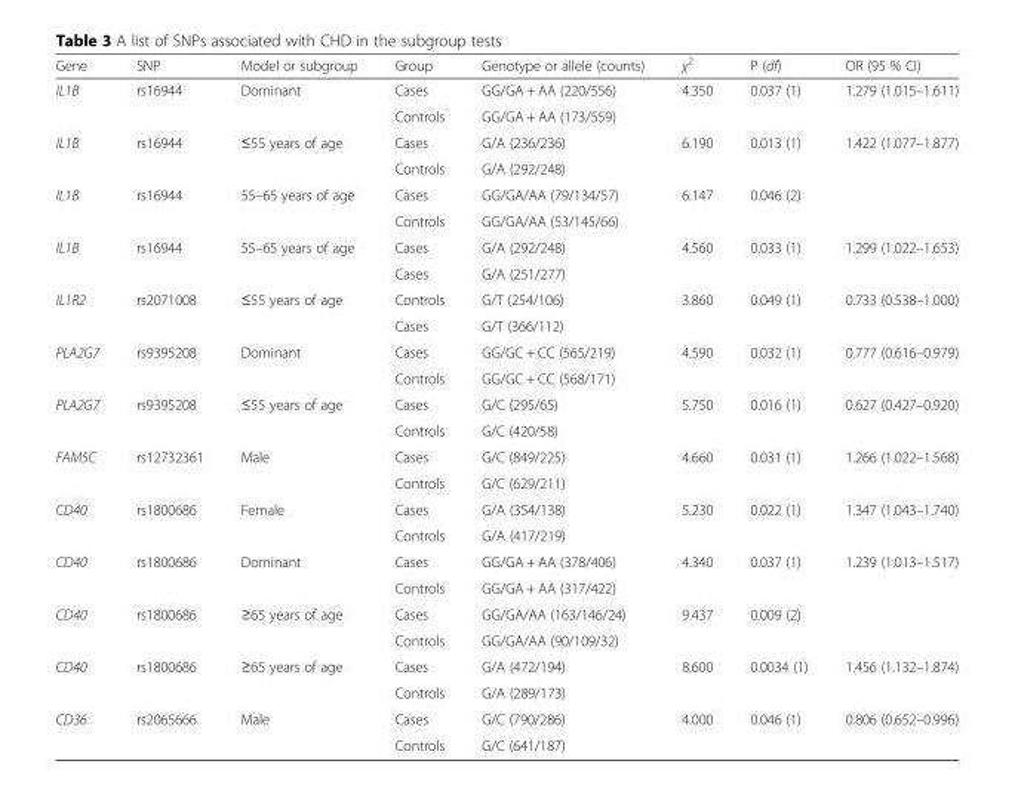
<table><thead><tr><td>Gene</td><td>SNP</td><td>Model or subgroup</td><td>Group</td><td>Genotype or allele (counts)</td><td>χ<sup>2</sup></td><td>P (df)</td><td>OR (95 % CI)</td></tr></thead><tbody><tr><td rowspan="2">IL1B</td><td>rs16944</td><td>Dominant</td><td>Cases</td><td>GG/GA + AA (220/556)</td><td>4.350</td><td>0.037 (1)</td><td>1.279 (1.015–1.611)</td></tr><tr><td></td><td></td><td>Controls</td><td>GG/GA + AA (173/559)</td><td></td><td></td><td></td></tr><tr><td rowspan="2">IL1B</td><td>rs16944</td><td>≤55 years of age</td><td>Cases</td><td>G/A (236/236)</td><td>6.190</td><td>0.013 (1)</td><td>1.422 (1.077–1.877)</td></tr><tr><td></td><td></td><td>Controls</td><td>G/A (292/248)</td><td></td><td></td><td></td></tr><tr><td rowspan="2">IL1B</td><td>rs16944</td><td>55–65 years of age</td><td>Cases</td><td>GG/GA/AA (79/134/57)</td><td>6.147</td><td>0.046 (2)</td><td></td></tr><tr><td></td><td></td><td>Controls</td><td>GG/GA/AA (53/145/66)</td><td></td><td></td><td></td></tr><tr><td rowspan="2">IL1B</td><td>rs16944</td><td>55–65 years of age</td><td>Cases</td><td>G/A (292/248)</td><td>4.560</td><td>0.033 (1)</td><td>1.299 (1.022–1.653)</td></tr><tr><td></td><td></td><td>Cases</td><td>G/A (251/277)</td><td></td><td></td><td></td></tr><tr><td rowspan="2">IL1R2</td><td>rs2071008</td><td>≤55 years of age</td><td>Controls</td><td>G/T (254/106)</td><td>3.860</td><td>0.049 (1)</td><td>0.733 (0.538–1.000)</td></tr><tr><td></td><td></td><td>Cases</td><td>G/T (366/112)</td><td></td><td></td><td></td></tr><tr><td rowspan="2">PLA2G7</td><td>rs9395208</td><td>Dominant</td><td>Cases</td><td>GG/GC + CC (565/219)</td><td>4.590</td><td>0.032 (1)</td><td>0.777 (0.616–0.979)</td></tr><tr><td></td><td></td><td>Controls</td><td>GG/GC + CC (568/171)</td><td></td><td></td><td></td></tr><tr><td rowspan="2">PLA2G7</td><td>rs9395208</td><td>≤55 years of age</td><td>Cases</td><td>G/C (295/65)</td><td>5.750</td><td>0.016 (1)</td><td>0.627 (0.427–0.920)</td></tr><tr><td></td><td></td><td>Controls</td><td>G/C (420/58)</td><td></td><td></td><td></td></tr><tr><td rowspan="2">FAM5C</td><td>rs12732361</td><td>Male</td><td>Cases</td><td>G/C (849/225)</td><td>4.660</td><td>0.031 (1)</td><td>1.266 (1.022–1.568)</td></tr><tr><td></td><td></td><td>Controls</td><td>G/C (629/211)</td><td></td><td></td><td></td></tr><tr><td rowspan="2">CD40</td><td>rs1800686</td><td>Female</td><td>Cases</td><td>G/A (354/138)</td><td>5.230</td><td>0.022 (1)</td><td>1.347 (1.043–1.740)</td></tr><tr><td></td><td></td><td>Controls</td><td>G/A (417/219)</td><td></td><td></td><td></td></tr><tr><td rowspan="2">CD40</td><td>rs1800686</td><td>Dominant</td><td>Cases</td><td>GG/GA + AA (378/406)</td><td>4.340</td><td>0.037 (1)</td><td>1.239 (1.013–1.517)</td></tr><tr><td></td><td></td><td>Controls</td><td>GG/GA + AA (317/422)</td><td></td><td></td><td></td></tr><tr><td rowspan="2">CD40</td><td>rs1800686</td><td>≥65 years of age</td><td>Cases</td><td>GG/GA/AA (163/146/24)</td><td>9.437</td><td>0.009 (2)</td><td></td></tr><tr><td></td><td></td><td>Controls</td><td>GG/GA/AA (90/109/32)</td><td></td><td></td><td></td></tr><tr><td rowspan="2">CD40</td><td>rs1800686</td><td>≥65 years of age</td><td>Cases</td><td>G/A (472/194)</td><td>8.600</td><td>0.0034 (1)</td><td>1.456 (1.132–1.874)</td></tr><tr><td></td><td></td><td>Controls</td><td>G/A (289/173)</td><td></td><td></td><td></td></tr><tr><td rowspan="2">CD36</td><td>rs2065666</td><td>Male</td><td>Cases</td><td>G/C (790/286)</td><td>4.000</td><td>0.046 (1)</td><td>0.806 (0.652–0.996)</td></tr><tr><td></td><td></td><td>Controls</td><td>G/C (641/187)</td><td></td><td></td><td></td></tr></tbody></table>